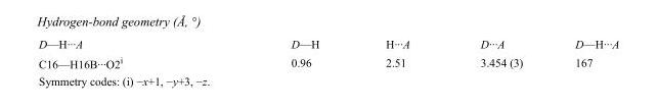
<table><tbody><tr><td>D—H···A</td><td>D—H</td><td>H···A</td><td>D···A</td><td>D—H···A</td></tr><tr><td>C16—H16B···O2<sup>i</sup></td><td>0.96</td><td>2.51</td><td>3.454 (3)</td><td>167</td></tr></tbody></table>